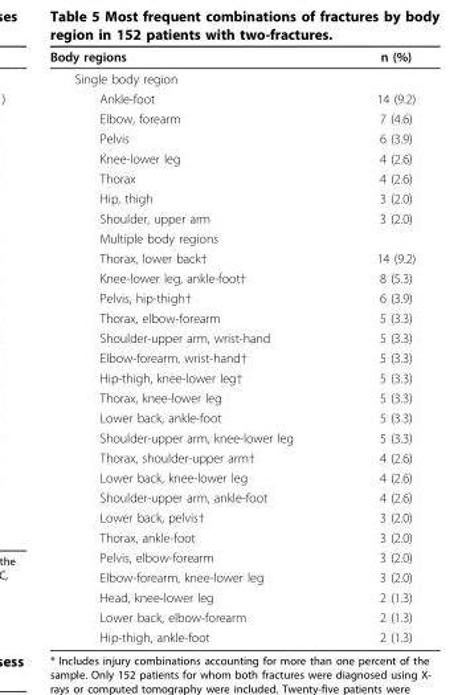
<table><thead><tr><td>Body regions</td><td>n (%)</td></tr></thead><tbody><tr><td colspan="2">Single body region</td></tr><tr><td>Ankle-foot</td><td>14 (9.2)</td></tr><tr><td>Elbow, forearm</td><td>7 (4.6)</td></tr><tr><td>Pelvis</td><td>6 (3.9)</td></tr><tr><td>Knee-lower leg</td><td>4 (2.6)</td></tr><tr><td>Thorax</td><td>4 (2.6)</td></tr><tr><td>Hip, thigh</td><td>3 (2.0)</td></tr><tr><td>Shoulder, upper arm</td><td>3 (2.0)</td></tr><tr><td colspan="2">Multiple body regions</td></tr><tr><td>Thorax, lower back†</td><td>14 (9.2)</td></tr><tr><td>Knee-lower leg, ankle-foot†</td><td>8 (5.3)</td></tr><tr><td>Pelvis, hip-thigh†</td><td>6 (3.9)</td></tr><tr><td>Thorax, elbow-forearm</td><td>5 (3.3)</td></tr><tr><td>Shoulder-upper arm, wrist-hand</td><td>5 (3.3)</td></tr><tr><td>Elbow-forearm, wrist-hand†</td><td>5 (3.3)</td></tr><tr><td>Hip-thigh, knee-lower leg†</td><td>5 (3.3)</td></tr><tr><td>Thorax, knee-lower leg</td><td>5 (3.3)</td></tr><tr><td>Lower back, ankle-foot</td><td>5 (3.3)</td></tr><tr><td>Shoulder-upper arm, knee-lower leg</td><td>5 (3.3)</td></tr><tr><td>Thorax, shoulder-upper arm†</td><td>4 (2.6)</td></tr><tr><td>Lower back, knee-lower leg</td><td>4 (2.6)</td></tr><tr><td>Shoulder-upper arm, ankle-foot</td><td>4 (2.6)</td></tr><tr><td>Lower back, pelvis†</td><td>3 (2.0)</td></tr><tr><td>Thorax, ankle-foot</td><td>3 (2.0)</td></tr><tr><td>Pelvis, elbow-forearm</td><td>3 (2.0)</td></tr><tr><td>Elbow-forearm, knee-lower leg</td><td>3 (2.0)</td></tr><tr><td>Head, knee-lower leg</td><td>2 (1.3)</td></tr><tr><td>Lower back, elbow-forearm</td><td>2 (1.3)</td></tr><tr><td>Hip-thigh, ankle-foot</td><td>2 (1.3)</td></tr></tbody></table>